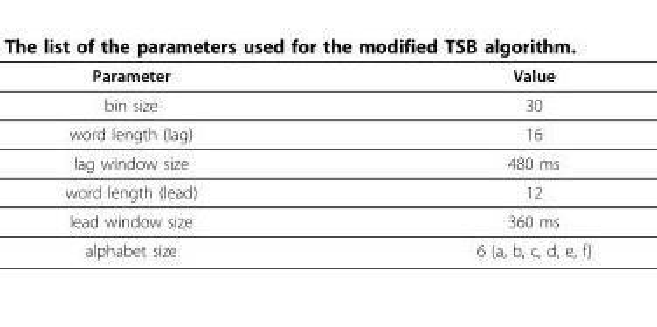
<table><thead><tr><td>Parameter</td><td>Value</td></tr></thead><tbody><tr><td>bin size</td><td>30</td></tr><tr><td>word length (lag)</td><td>16</td></tr><tr><td>lag window size</td><td>480 ms</td></tr><tr><td>word length (lead)</td><td>12</td></tr><tr><td>lead window size</td><td>360 ms</td></tr><tr><td>alphabet size</td><td>6 {a, b, c, d, e, f}</td></tr></tbody></table>